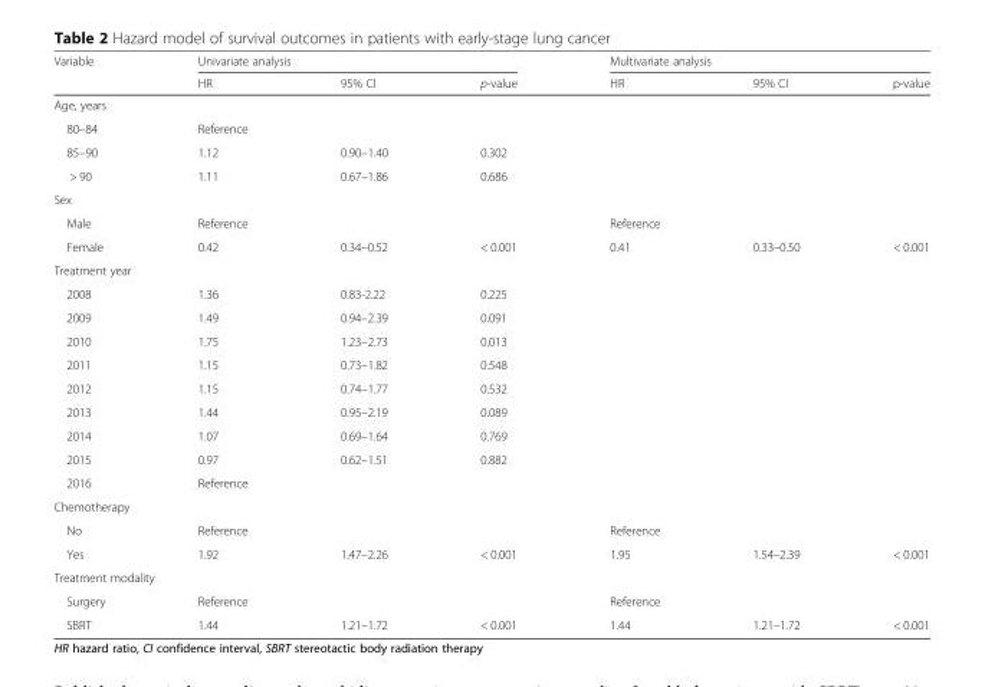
<table><thead><tr><td rowspan="2">Variable</td><td colspan="3">Univariate analysis</td><td colspan="3">Multivariate analysis</td></tr><tr><td>HR</td><td>95% CI</td><td>p-value</td><td>HR</td><td>95% CI</td><td>p-value</td></tr></thead><tbody><tr><td colspan="7">Age, years</td></tr><tr><td>80–84</td><td>Reference</td><td></td><td></td><td></td><td></td><td></td></tr><tr><td>85–90</td><td>1.12</td><td>0.90–1.40</td><td>0.302</td><td></td><td></td><td></td></tr><tr><td>&gt; 90</td><td>1.11</td><td>0.67–1.86</td><td>0.686</td><td></td><td></td><td></td></tr><tr><td colspan="7">Sex</td></tr><tr><td>Male</td><td>Reference</td><td></td><td></td><td>Reference</td><td></td><td></td></tr><tr><td>Female</td><td>0.42</td><td>0.34–0.52</td><td>&lt; 0.001</td><td>0.41</td><td>0.33–0.50</td><td>&lt; 0.001</td></tr><tr><td colspan="7">Treatment year</td></tr><tr><td>2008</td><td>1.36</td><td>0.83-2.22</td><td>0.225</td><td></td><td></td><td></td></tr><tr><td>2009</td><td>1.49</td><td>0.94–2.39</td><td>0.091</td><td></td><td></td><td></td></tr><tr><td>2010</td><td>1.75</td><td>1.23–2.73</td><td>0.013</td><td></td><td></td><td></td></tr><tr><td>2011</td><td>1.15</td><td>0.73–1.82</td><td>0.548</td><td></td><td></td><td></td></tr><tr><td>2012</td><td>1.15</td><td>0.74–1.77</td><td>0.532</td><td></td><td></td><td></td></tr><tr><td>2013</td><td>1.44</td><td>0.95–2.19</td><td>0.089</td><td></td><td></td><td></td></tr><tr><td>2014</td><td>1.07</td><td>0.69–1.64</td><td>0.769</td><td></td><td></td><td></td></tr><tr><td>2015</td><td>0.97</td><td>0.62–1.51</td><td>0.882</td><td></td><td></td><td></td></tr><tr><td>2016</td><td>Reference</td><td></td><td></td><td></td><td></td><td></td></tr><tr><td colspan="7">Chemotherapy</td></tr><tr><td>No</td><td>Reference</td><td></td><td></td><td>Reference</td><td></td><td></td></tr><tr><td>Yes</td><td>1.92</td><td>1.47–2.26</td><td>&lt; 0.001</td><td>1.95</td><td>1.54–2.39</td><td>&lt; 0.001</td></tr><tr><td colspan="7">Treatment modality</td></tr><tr><td>Surgery</td><td>Reference</td><td></td><td></td><td>Reference</td><td></td><td></td></tr><tr><td>SBRT</td><td>1.44</td><td>1.21–1.72</td><td>&lt; 0.001</td><td>1.44</td><td>1.21–1.72</td><td>&lt; 0.001</td></tr></tbody></table>